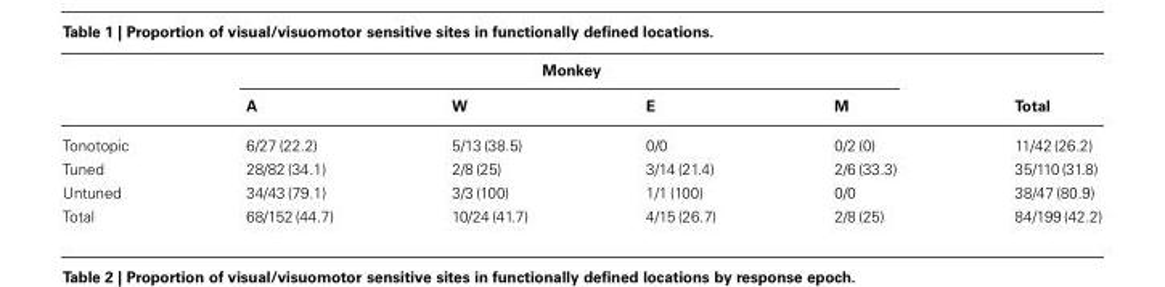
<table><thead><tr><td rowspan="2"></td><td colspan="4">Monkey</td><td rowspan="2">Total</td></tr><tr><td>A</td><td>W</td><td>E</td><td>M</td></tr></thead><tbody><tr><td>Tonotopic</td><td>6/27 (22.2)</td><td>5/13 (38.5)</td><td>0/0</td><td>0/2 (0)</td><td>11/42(26.2)</td></tr><tr><td>Tuned</td><td>28/82 (34.1)</td><td>2/8 (25)</td><td>3/14 (21.4)</td><td>2/6 (33.3)</td><td>35/110(31.8)</td></tr><tr><td>Untuned</td><td>34/43 (79.1)</td><td>3/3 (100)</td><td>1/1 (100)</td><td>0/0</td><td>38/47 (80.9)</td></tr><tr><td>Total</td><td>68/152(44.7)</td><td>10/24 (41.7)</td><td>4/15 (26.7)</td><td>2/8 (25)</td><td>84/199(42.2)</td></tr></tbody></table>